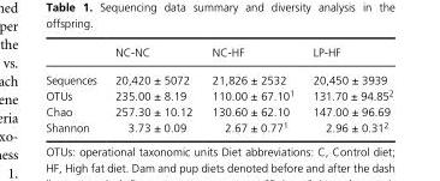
<table><thead><tr><td></td><td>NC- NC</td><td>NC- HF</td><td>LP- HF</td></tr></thead><tbody><tr><td>Sequences</td><td>20,420 ± 5072</td><td>21,826 ± 2532</td><td>20,450 ± 3939</td></tr><tr><td>OTUs</td><td>235.00 ± 8.19</td><td>110.00 ± 67.101</td><td>131.70 ± 94.852</td></tr><tr><td>Chao</td><td>257.30 ± 10.12</td><td>130.60 ± 62.10</td><td>147.00 ± 96.69</td></tr><tr><td>Shannon</td><td>3.73 ± 0.09</td><td>2.67 ± 0.771</td><td>2.96 ± 0.312</td></tr></tbody></table>